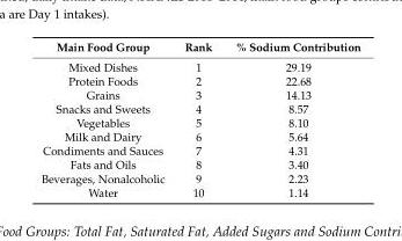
<table><thead><tr><td>Main Food Group</td><td>Rank</td><td>% Sodium Contribution</td></tr></thead><tbody><tr><td>Mixed Dishes</td><td>1</td><td>29.19</td></tr><tr><td>Protein Foods</td><td>2</td><td>22.68</td></tr><tr><td>Grains</td><td>3</td><td>14.13</td></tr><tr><td>Snacks and Sweets</td><td>4</td><td>8.57</td></tr><tr><td>Vegetables</td><td>5</td><td>8.10</td></tr><tr><td>Milk and Dairy</td><td>6</td><td>5.64</td></tr><tr><td>Condiments and Sauces</td><td>7</td><td>4.31</td></tr><tr><td>Fats and Oils</td><td>8</td><td>3.40</td></tr><tr><td>Beverages, Nonalcoholic</td><td>9</td><td>2.23</td></tr><tr><td>Water</td><td>10</td><td>1.14</td></tr></tbody></table>